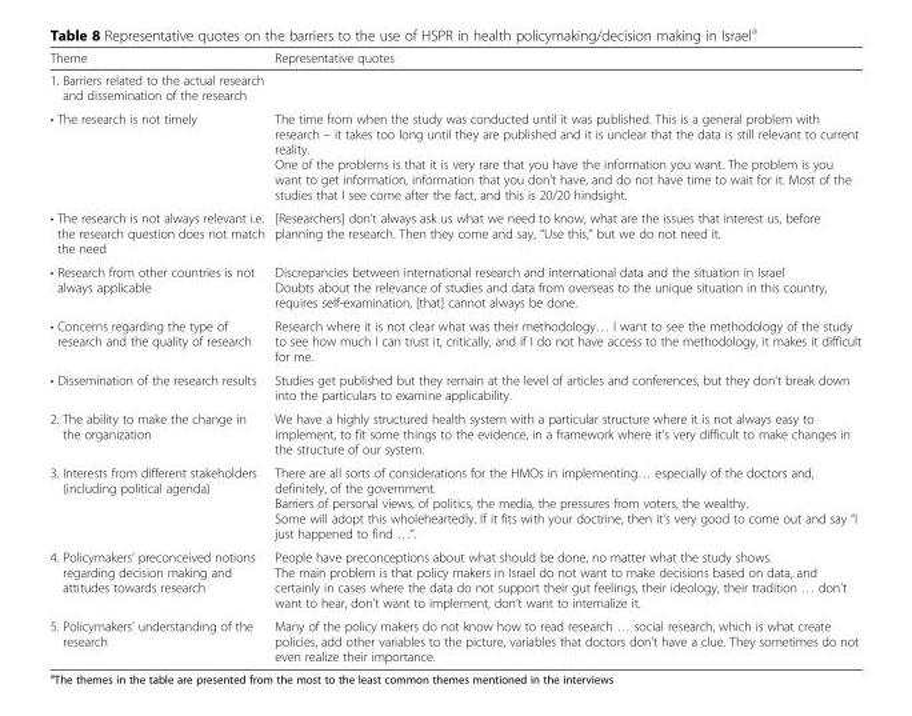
<table><thead><tr><td>Theme</td><td>Representative quotes</td></tr></thead><tbody><tr><td colspan="2">1. Barriers related to the actual research and dissemination of the research</td></tr><tr><td>• The research is not timely</td><td>The time from when the study was conducted until it was published. This is a general problem with research – it takes too long until they are published and it is unclear that the data is still relevant to current reality. One of the problems is that it is very rare that you have the information you want. The problem is you want to get information, information that you don’t have, and do not have time to wait for it. Most of the studies that I see come after the fact, and this is 20/20 hindsight.</td></tr><tr><td>• The research is not always relevant i.e. the research question does not match the need</td><td>[Researchers] don’t always ask us what we need to know, what are the issues that interest us, before planning the research. Then they come and say, “Use this,” but we do not need it.</td></tr><tr><td>• Research from other countries is not always applicable</td><td>Discrepancies between international research and international data and the situation in Israel Doubts about the relevance of studies and data from overseas to the unique situation in this country, requires self-examination, [that] cannot always be done.</td></tr><tr><td>• Concerns regarding the type of research and the quality of research</td><td>Research where it is not clear what was their methodology… I want to see the methodology of the study to see how much I can trust it, critically, and if I do not have access to the methodology, it makes it difficult for me.</td></tr><tr><td>• Dissemination of the research results</td><td>Studies get published but they remain at the level of articles and conferences, but they don’t break down into the particulars to examine applicability.</td></tr><tr><td>2. The ability to make the change in the organization</td><td>We have a highly structured health system with a particular structure where it is not always easy to implement, to fit some things to the evidence, in a framework where it’s very difficult to make changes in the structure of our system.</td></tr><tr><td>3. Interests from different stakeholders (including political agenda)</td><td>There are all sorts of considerations for the HMOs in implementing… especially of the doctors and, definitely, of the government. Barriers of personal views, of politics, the media, the pressures from voters, the wealthy. Some will adopt this wholeheartedly. If it fits with your doctrine, then it’s very good to come out and say “I just happened to find …”.</td></tr><tr><td>4. Policymakers’ preconceived notions regarding decision making and attitudes towards research</td><td>People have preconceptions about what should be done, no matter what the study shows. The main problem is that policy makers in Israel do not want to make decisions based on data, and certainly in cases where the data do not support their gut feelings, their ideology, their tradition … don’t want to hear, don’t want to implement, don’t want to internalize it.</td></tr><tr><td>5. Policymakers’ understanding of the research</td><td>Many of the policy makers do not know how to read research … social research, which is what create policies, add other variables to the picture, variables that doctors don’t have a clue. They sometimes do not even realize their importance.</td></tr></tbody></table>